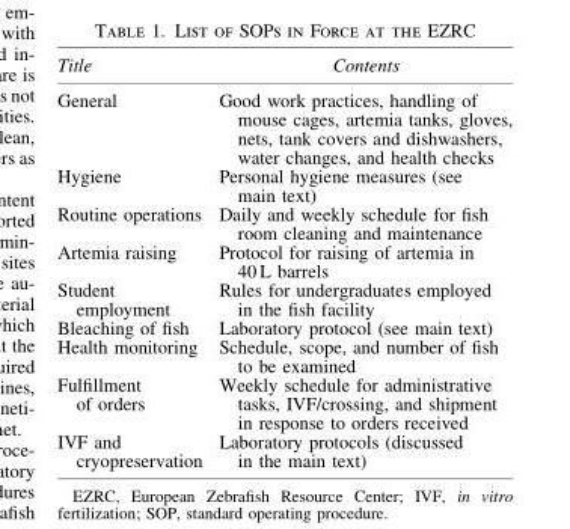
<table><thead><tr><td>Title</td><td>Contents</td></tr></thead><tbody><tr><td>General</td><td>Good work practices, handling of mouse cages, artemia tanks, gloves, nets, tank covers and dishwashers, water changes, and health checks</td></tr><tr><td>Hygiene</td><td>Personal hygiene measures (see main text)</td></tr><tr><td>Routine operations</td><td>Daily and weekly schedule for fish room cleaning and maintenance</td></tr><tr><td>Artemia raising</td><td>Protocol for raising of artemia in 40 L barrels</td></tr><tr><td>Student employment</td><td>Rules for undergraduates employed in the fish facility</td></tr><tr><td>Bleaching of fish</td><td>Laboratory protocol (see main text)</td></tr><tr><td>Health monitoring</td><td>Schedule, scope, and number of fish to be examined</td></tr><tr><td>Fulfillment of orders</td><td>Weekly schedule for administrative tasks, IVF/crossing, and shipment in response to orders received</td></tr><tr><td>IVF and cryopreservation</td><td>Laboratory protocols (discussed in the main text)</td></tr></tbody></table>